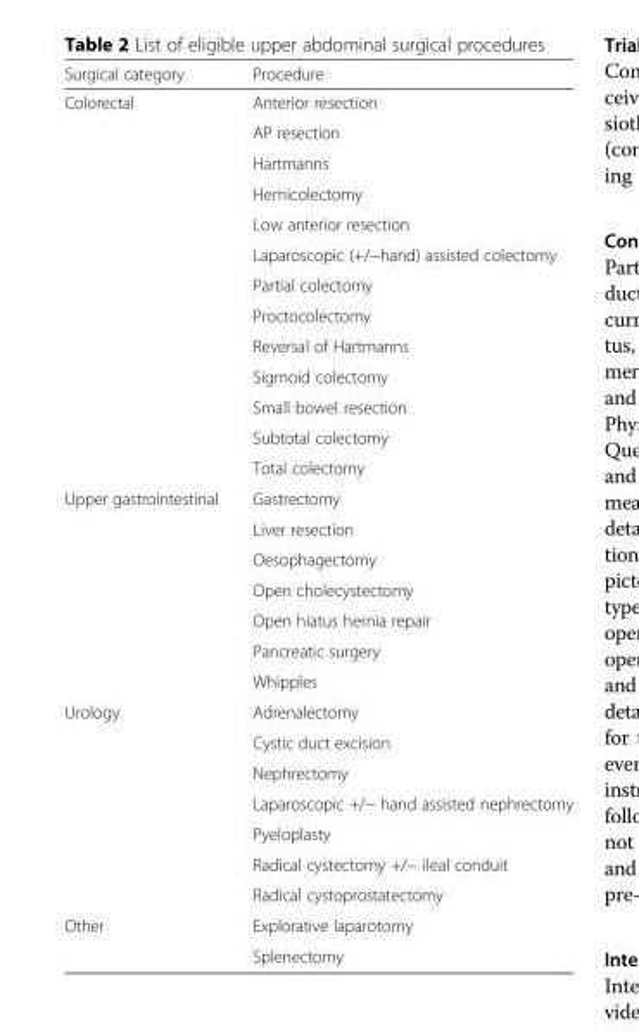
<table><thead><tr><td>Surgical category</td><td>Procedure</td></tr></thead><tbody><tr><td rowspan="13">Colorectal</td><td>Anterior resection</td></tr><tr><td>AP resection</td></tr><tr><td>Hartmanns</td></tr><tr><td>Hemicolectomy</td></tr><tr><td>Low anterior resection</td></tr><tr><td>Laparoscopic (+/−hand) assisted colectomy</td></tr><tr><td>Partial colectomy</td></tr><tr><td>Proctocolectomy</td></tr><tr><td>Reversal of Hartmanns</td></tr><tr><td>Sigmoid colectomy</td></tr><tr><td>Small bowel resection</td></tr><tr><td>Subtotal colectomy</td></tr><tr><td>Total colectomy</td></tr><tr><td rowspan="7">Upper gastrointestinal</td><td>Gastrectomy</td></tr><tr><td>Liver resection</td></tr><tr><td>Oesophagectomy</td></tr><tr><td>Open cholecystectomy</td></tr><tr><td>Open hiatus hernia repair</td></tr><tr><td>Pancreatic surgery</td></tr><tr><td>Whipples</td></tr><tr><td rowspan="7">Urology</td><td>Adrenalectomy</td></tr><tr><td>Cystic duct excision</td></tr><tr><td>Nephrectomy</td></tr><tr><td>Laparoscopic +/− hand assisted nephrectomy</td></tr><tr><td>Pyeloplasty</td></tr><tr><td>Radical cystectomy +/− ileal conduit</td></tr><tr><td>Radical cystoprostatectomy</td></tr><tr><td rowspan="2">Other</td><td>Explorative laparotomy</td></tr><tr><td>Splenectomy</td></tr></tbody></table>